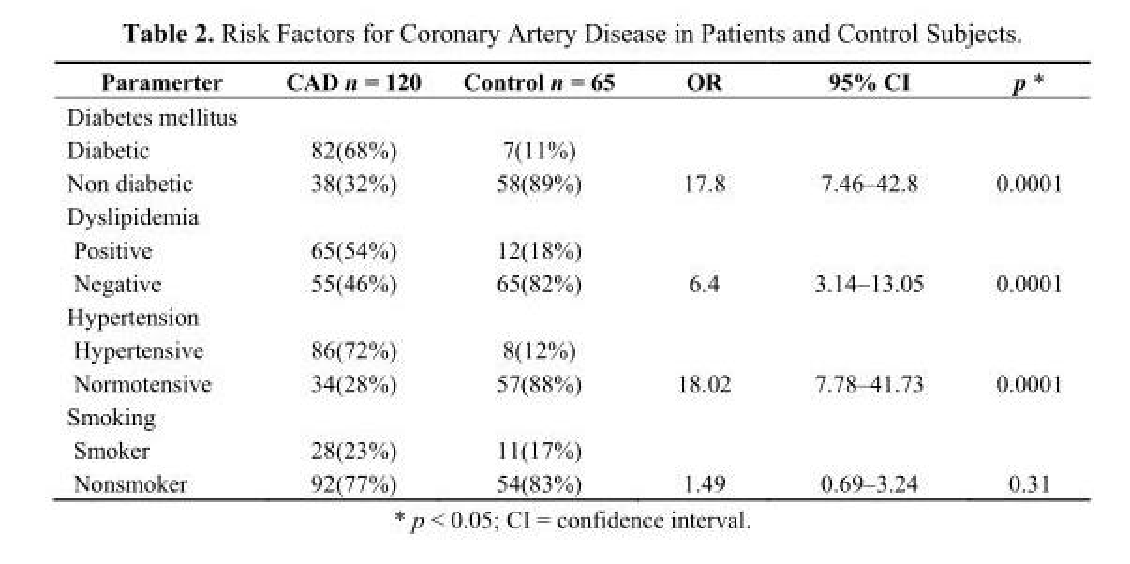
<table><thead><tr><td>Paramerter</td><td>CAD n = 120</td><td>Control n = 65</td><td>OR</td><td>95% CI</td><td>p *</td></tr></thead><tbody><tr><td colspan="6">Diabetes mellitus</td></tr><tr><td>Diabetic</td><td>82(68%)</td><td>7(11%)</td><td></td><td></td><td></td></tr><tr><td>Non diabetic</td><td>38(32%)</td><td>58(89%)</td><td>17.8</td><td>7.46–42.8</td><td>0.0001</td></tr><tr><td colspan="6">Dyslipidemia</td></tr><tr><td>Positive</td><td>65(54%)</td><td>12(18%)</td><td></td><td></td><td></td></tr><tr><td>Negative</td><td>55(46%)</td><td>65(82%)</td><td>6.4</td><td>3.14–13.05</td><td>0.0001</td></tr><tr><td colspan="6">Hypertension</td></tr><tr><td>Hypertensive</td><td>86(72%)</td><td>8(12%)</td><td></td><td></td><td></td></tr><tr><td>Normotensive</td><td>34(28%)</td><td>57(88%)</td><td>18.02</td><td>7.78–41.73</td><td>0.0001</td></tr><tr><td colspan="6">Smoking</td></tr><tr><td>Smoker</td><td>28(23%)</td><td>11(17%)</td><td></td><td></td><td></td></tr><tr><td>Nonsmoker</td><td>92(77%)</td><td>54(83%)</td><td>1.49</td><td>0.69–3.24</td><td>0.31</td></tr></tbody></table>